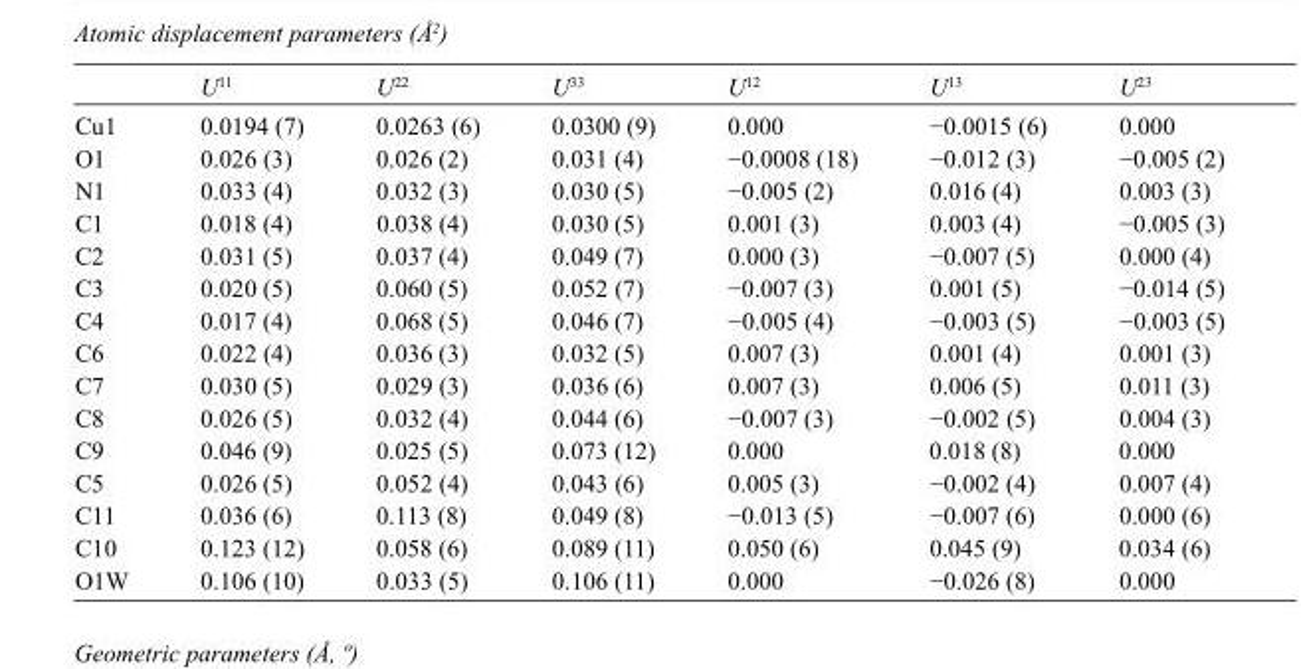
<table><thead><tr><td></td><td>U<sup>11</sup></td><td>U<sup>22</sup></td><td>U<sup>33</sup></td><td>U<sup>12</sup></td><td>U<sup>13</sup></td><td>U<sup>23</sup></td></tr></thead><tbody><tr><td>Cu1</td><td>0.0194 (7)</td><td>0.0263 (6)</td><td>0.0300 (9)</td><td>0.000</td><td>−0.0015 (6)</td><td>0.000</td></tr><tr><td>O1</td><td>0.026 (3)</td><td>0.026 (2)</td><td>0.031 (4)</td><td>−0.0008 (18)</td><td>−0.012 (3)</td><td>−0.005 (2)</td></tr><tr><td>N1</td><td>0.033 (4)</td><td>0.032 (3)</td><td>0.030 (5)</td><td>−0.005 (2)</td><td>0.016 (4)</td><td>0.003 (3)</td></tr><tr><td>C1</td><td>0.018 (4)</td><td>0.038 (4)</td><td>0.030 (5)</td><td>0.001 (3)</td><td>0.003 (4)</td><td>−0.005 (3)</td></tr><tr><td>C2</td><td>0.031 (5)</td><td>0.037 (4)</td><td>0.049 (7)</td><td>0.000 (3)</td><td>−0.007 (5)</td><td>0.000 (4)</td></tr><tr><td>C3</td><td>0.020 (5)</td><td>0.060 (5)</td><td>0.052 (7)</td><td>−0.007 (3)</td><td>0.001 (5)</td><td>−0.014 (5)</td></tr><tr><td>C4</td><td>0.017 (4)</td><td>0.068 (5)</td><td>0.046 (7)</td><td>−0.005 (4)</td><td>−0.003 (5)</td><td>−0.003 (5)</td></tr><tr><td>C6</td><td>0.022 (4)</td><td>0.036 (3)</td><td>0.032 (5)</td><td>0.007 (3)</td><td>0.001 (4)</td><td>0.001 (3)</td></tr><tr><td>C7</td><td>0.030 (5)</td><td>0.029 (3)</td><td>0.036 (6)</td><td>0.007 (3)</td><td>0.006 (5)</td><td>0.011 (3)</td></tr><tr><td>C8</td><td>0.026 (5)</td><td>0.032 (4)</td><td>0.044 (6)</td><td>−0.007 (3)</td><td>−0.002 (5)</td><td>0.004 (3)</td></tr><tr><td>C9</td><td>0.046 (9)</td><td>0.025 (5)</td><td>0.073 (12)</td><td>0.000</td><td>0.018 (8)</td><td>0.000</td></tr><tr><td>C5</td><td>0.026 (5)</td><td>0.052 (4)</td><td>0.043 (6)</td><td>0.005 (3)</td><td>−0.002 (4)</td><td>0.007 (4)</td></tr><tr><td>C11</td><td>0.036 (6)</td><td>0.113 (8)</td><td>0.049 (8)</td><td>−0.013 (5)</td><td>−0.007 (6)</td><td>0.000 (6)</td></tr><tr><td>C10</td><td>0.123 (12)</td><td>0.058 (6)</td><td>0.089 (11)</td><td>0.050 (6)</td><td>0.045 (9)</td><td>0.034 (6)</td></tr><tr><td>O1W</td><td>0.106 (10)</td><td>0.033 (5)</td><td>0.106 (11)</td><td>0.000</td><td>−0.026 (8)</td><td>0.000</td></tr></tbody></table>